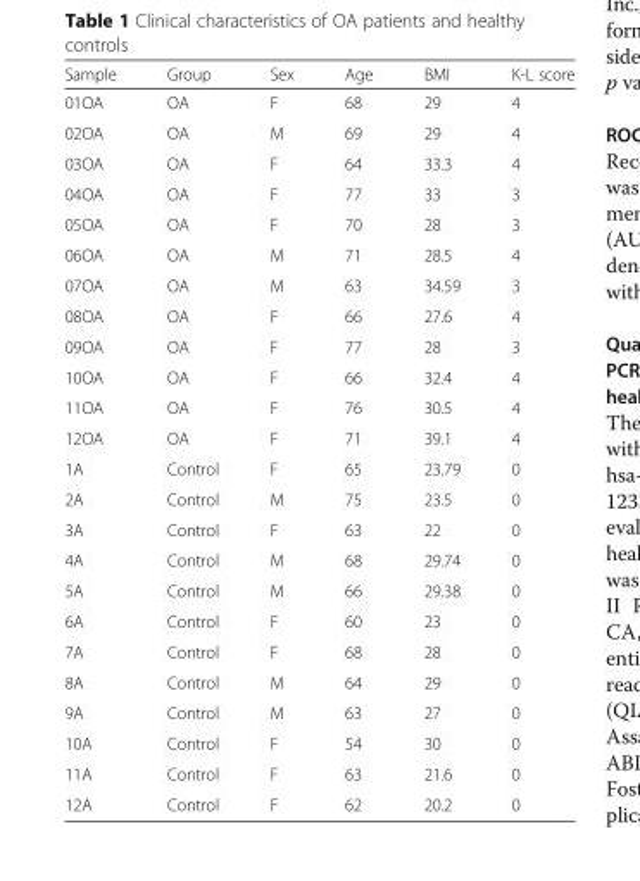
<table><thead><tr><td>Sample</td><td>Group</td><td>Sex</td><td>Age</td><td>BMI</td><td>K-L score</td></tr></thead><tbody><tr><td>01OA</td><td>OA</td><td>F</td><td>68</td><td>29</td><td>4</td></tr><tr><td>02OA</td><td>OA</td><td>M</td><td>69</td><td>29</td><td>4</td></tr><tr><td>03OA</td><td>OA</td><td>F</td><td>64</td><td>33.3</td><td>4</td></tr><tr><td>04OA</td><td>OA</td><td>F</td><td>77</td><td>33</td><td>3</td></tr><tr><td>05OA</td><td>OA</td><td>F</td><td>70</td><td>28</td><td>3</td></tr><tr><td>06OA</td><td>OA</td><td>M</td><td>71</td><td>28.5</td><td>4</td></tr><tr><td>07OA</td><td>OA</td><td>M</td><td>63</td><td>34.59</td><td>3</td></tr><tr><td>08OA</td><td>OA</td><td>F</td><td>66</td><td>27.6</td><td>4</td></tr><tr><td>09OA</td><td>OA</td><td>F</td><td>77</td><td>28</td><td>3</td></tr><tr><td>10OA</td><td>OA</td><td>F</td><td>66</td><td>32.4</td><td>4</td></tr><tr><td>11OA</td><td>OA</td><td>F</td><td>76</td><td>30.5</td><td>4</td></tr><tr><td>12OA</td><td>OA</td><td>F</td><td>71</td><td>39.1</td><td>4</td></tr><tr><td>1A</td><td>Control</td><td>F</td><td>65</td><td>23.79</td><td>0</td></tr><tr><td>2A</td><td>Control</td><td>M</td><td>75</td><td>23.5</td><td>0</td></tr><tr><td>3A</td><td>Control</td><td>F</td><td>63</td><td>22</td><td>0</td></tr><tr><td>4A</td><td>Control</td><td>M</td><td>68</td><td>29.74</td><td>0</td></tr><tr><td>5A</td><td>Control</td><td>M</td><td>66</td><td>29.38</td><td>0</td></tr><tr><td>6A</td><td>Control</td><td>F</td><td>60</td><td>23</td><td>0</td></tr><tr><td>7A</td><td>Control</td><td>F</td><td>68</td><td>28</td><td>0</td></tr><tr><td>8A</td><td>Control</td><td>M</td><td>64</td><td>29</td><td>0</td></tr><tr><td>9A</td><td>Control</td><td>M</td><td>63</td><td>27</td><td>0</td></tr><tr><td>10A</td><td>Control</td><td>F</td><td>54</td><td>30</td><td>0</td></tr><tr><td>11A</td><td>Control</td><td>F</td><td>63</td><td>21.6</td><td>0</td></tr><tr><td>12A</td><td>Control</td><td>F</td><td>62</td><td>20.2</td><td>0</td></tr></tbody></table>